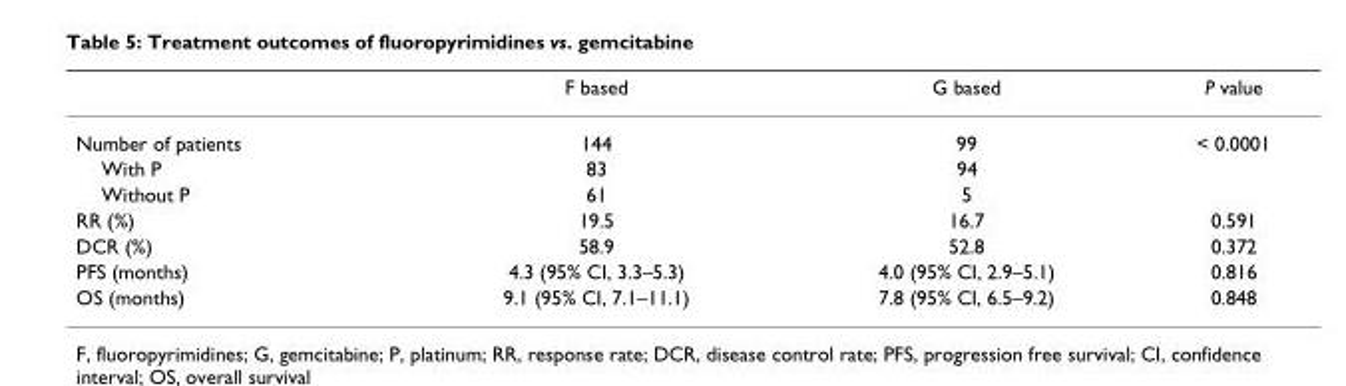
<table><thead><tr><td></td><td>F based</td><td>G based</td><td>P value</td></tr></thead><tbody><tr><td>Number of patients</td><td>144</td><td>99</td><td>&lt; 0.0001</td></tr><tr><td>With P</td><td>83</td><td>94</td><td></td></tr><tr><td>Without P</td><td>61</td><td>5</td><td></td></tr><tr><td>RR (%)</td><td>19.5</td><td>16.7</td><td>0.591</td></tr><tr><td>DCR (%)</td><td>58.9</td><td>52.8</td><td>0.372</td></tr><tr><td>PFS (months)</td><td>4.3 (95% CI, 3.3–5.3)</td><td>4.0 (95% CI, 2.9–5.1)</td><td>0.816</td></tr><tr><td>OS (months)</td><td>9.1 (95% CI, 7.1–11.1)</td><td>7.8 (95% CI, 6.5–9.2)</td><td>0.848</td></tr></tbody></table>